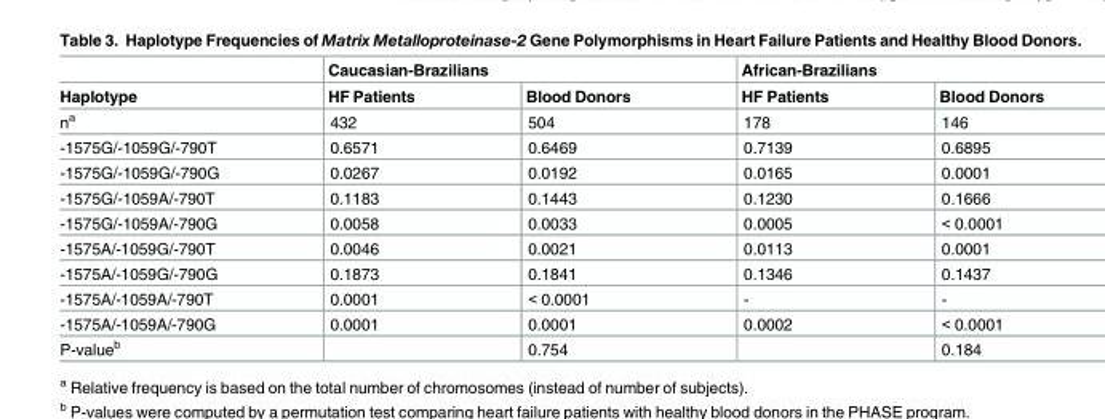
<table><thead><tr><td rowspan="2">Haplotype</td><td colspan="2">Caucasian-Brazilians</td><td colspan="2">African-Brazilians</td></tr><tr><td>HF Patients</td><td>Blood Donors</td><td>HF Patients</td><td>Blood Donors</td></tr></thead><tbody><tr><td>n<sup>a</sup></td><td>432</td><td>504</td><td>178</td><td>146</td></tr><tr><td>-1575G/-1059G/-790T</td><td>0.6571</td><td>0.6469</td><td>0.7139</td><td>0.6895</td></tr><tr><td>-1575G/-1059G/-790G</td><td>0.0267</td><td>0.0192</td><td>0.0165</td><td>0.0001</td></tr><tr><td>-1575G/-1059A/-790T</td><td>0.1183</td><td>0.1443</td><td>0.1230</td><td>0.1666</td></tr><tr><td>-1575G/-1059A/-790G</td><td>0.0058</td><td>0.0033</td><td>0.0005</td><td>&lt; 0.0001</td></tr><tr><td>-1575A/-1059G/-790T</td><td>0.0046</td><td>0.0021</td><td>0.0113</td><td>0.0001</td></tr><tr><td>-1575A/-1059G/-790G</td><td>0.1873</td><td>0.1841</td><td>0.1346</td><td>0.1437</td></tr><tr><td>-1575A/-1059A/-790T</td><td>0.0001</td><td>&lt; 0.0001</td><td>-</td><td>-</td></tr><tr><td>-1575A/-1059A/-790G</td><td>0.0001</td><td>0.0001</td><td>0.0002</td><td>&lt; 0.0001</td></tr><tr><td>P-value<sup>b</sup></td><td></td><td>0.754</td><td></td><td>0.184</td></tr></tbody></table>